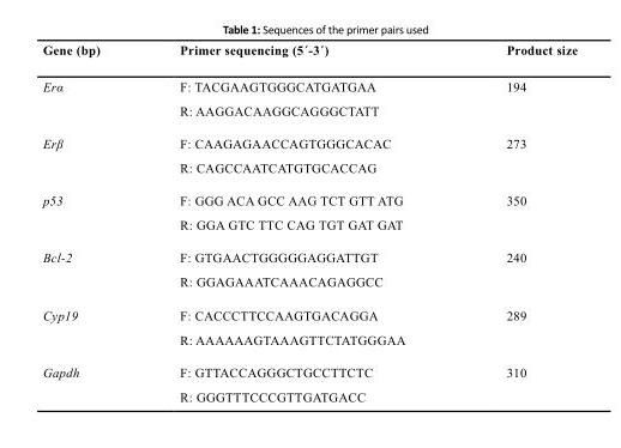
<table><thead><tr><td>Gene (bp)</td><td>Primer sequencing (5ˊ-3ˊ)</td><td>Product size</td></tr></thead><tbody><tr><td rowspan="2">Erα</td><td>F: TACGAAGTGGGCATGATGAA</td><td>194</td></tr><tr><td>R: AAGGACAAGGCAGGGCTATT</td><td></td></tr><tr><td rowspan="2">Erβ</td><td>F: CAAGAGAACCAGTGGGCACAC</td><td>273</td></tr><tr><td>R: CAGCCAATCATGTGCACCAG</td><td></td></tr><tr><td rowspan="2">p53</td><td>F: GGG ACA GCC AAG TCT GTT ATG</td><td>350</td></tr><tr><td>R: GGA GTC TTC CAG TGT GAT GAT</td><td></td></tr><tr><td rowspan="2">Bcl-2</td><td>F: GTGAACTGGGGGAGGATTGT</td><td>240</td></tr><tr><td>R: GGAGAAATCAAACAGAGGCC</td><td></td></tr><tr><td rowspan="2">Cyp19</td><td>F: CACCCTTCCAAGTGACAGGA</td><td>289</td></tr><tr><td>R: AAAAAAGTAAAGTTCTATGGGAA</td><td></td></tr><tr><td rowspan="2">Gapdh</td><td>F: GTTACCAGGGCTGCCTTCTC</td><td>310</td></tr><tr><td>R: GGGTTTCCCGTTGATGACC</td><td></td></tr></tbody></table>